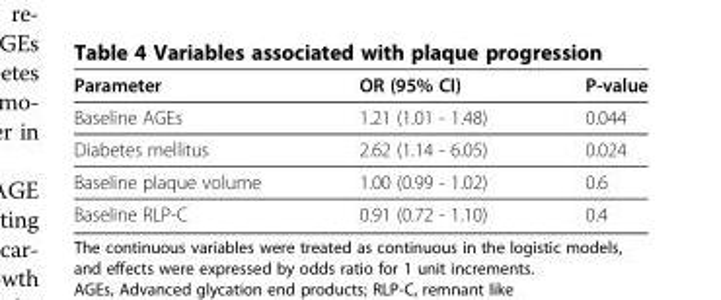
<table><thead><tr><td>Parameter</td><td>OR (95% CI)</td><td>P-value</td></tr></thead><tbody><tr><td>Baseline AGEs</td><td>1.21 (1.01 - 1.48)</td><td>0.044</td></tr><tr><td>Diabetes mellitus</td><td>2.62 (1.14 - 6.05)</td><td>0.024</td></tr><tr><td>Baseline plaque volume</td><td>1.00 (0.99 - 1.02)</td><td>0.6</td></tr><tr><td>Baseline RLP-C</td><td>0.91 (0.72 - 1.10)</td><td>0.4</td></tr></tbody></table>